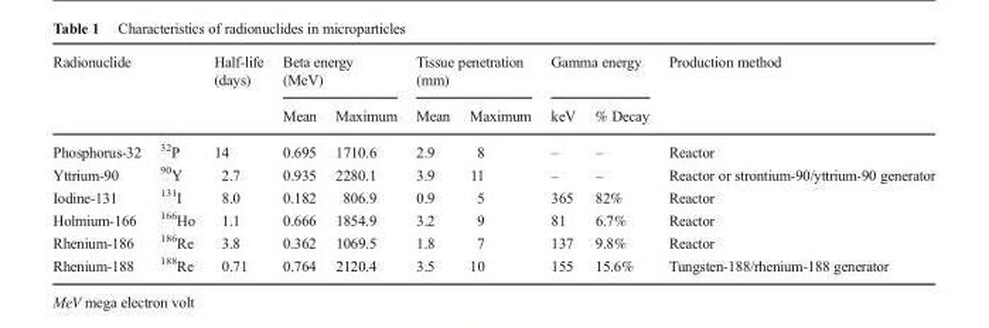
<table><thead><tr><td rowspan="2" colspan="2">Radionuclide</td><td rowspan="3">Half-life (days) 14</td><td colspan="2">Beta energy (MeV)</td><td colspan="2">Tissue penetration (mm)</td><td colspan="2">Gamma energy</td><td rowspan="3">Production method Reactor</td></tr><tr><td rowspan="2">Mean 0.695</td><td rowspan="2">Maximum 1710.6</td><td rowspan="2">Mean 2.9</td><td rowspan="2">Maximum 8</td><td rowspan="2">keV –</td><td rowspan="2">% Decay –</td></tr><tr><td>Phosphorus-32</td><td><sup>32</sup>P</td></tr></thead><tbody><tr><td>Yttrium-90</td><td><sup>90</sup>Y</td><td>2.7</td><td>0.935</td><td>2280.1</td><td>3.9</td><td>11</td><td>–</td><td>–</td><td>Reactor or strontium-90/yttrium-90 generator</td></tr><tr><td>Iodine-131</td><td><sup>131</sup>I</td><td>8.0</td><td>0.182</td><td>806.9</td><td>0.9</td><td>5</td><td>365</td><td>82%</td><td>Reactor</td></tr><tr><td>Holmium-166</td><td><sup>166</sup>Ho</td><td>1.1</td><td>0.666</td><td>1854.9</td><td>3.2</td><td>9</td><td>81</td><td>6.7%</td><td>Reactor</td></tr><tr><td>Rhenium-186</td><td><sup>186</sup>Re</td><td>3.8</td><td>0.362</td><td>1069.5</td><td>1.8</td><td>7</td><td>137</td><td>9.8%</td><td>Reactor</td></tr><tr><td>Rhenium-188</td><td><sup>188</sup>Re</td><td>0.71</td><td>0.764</td><td>2120.4</td><td>3.5</td><td>10</td><td>155</td><td>15.6%</td><td>Tungsten-188/rhenium-188 generator</td></tr></tbody></table>